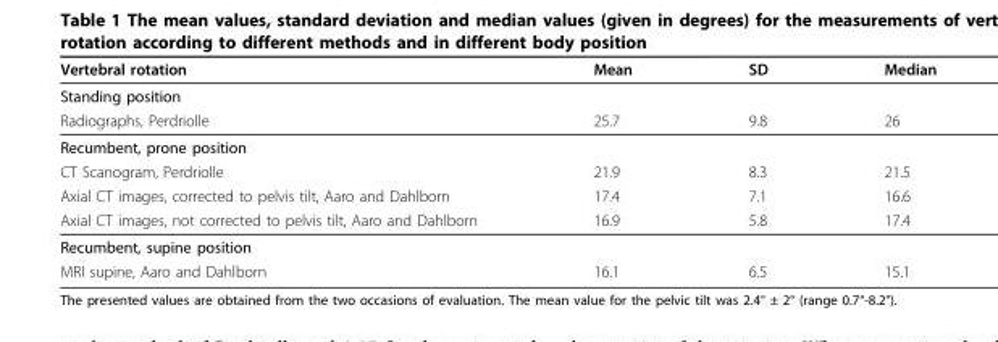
<table><thead><tr><td>Vertebral rotation</td><td>Mean</td><td>SD</td><td>Median</td></tr></thead><tbody><tr><td colspan="4">Standing position</td></tr><tr><td>Radiographs, Perdriolle</td><td>25.7</td><td>9.8</td><td>26</td></tr><tr><td colspan="4">Recumbent, prone position</td></tr><tr><td>CT Scanogram, Perdriolle</td><td>21.9</td><td>8.3</td><td>21.5</td></tr><tr><td>Axial CT images, corrected to pelvis tilt, Aaro and Dahlborn</td><td>17.4</td><td>7.1</td><td>16.6</td></tr><tr><td>Axial CT images, not corrected to pelvis tilt, Aaro and Dahlborn</td><td>16.9</td><td>5.8</td><td>17.4</td></tr><tr><td colspan="4">Recumbent, supine position</td></tr><tr><td>MRI supine, Aaro and Dahlborn</td><td>16.1</td><td>6.5</td><td>15.1</td></tr></tbody></table>